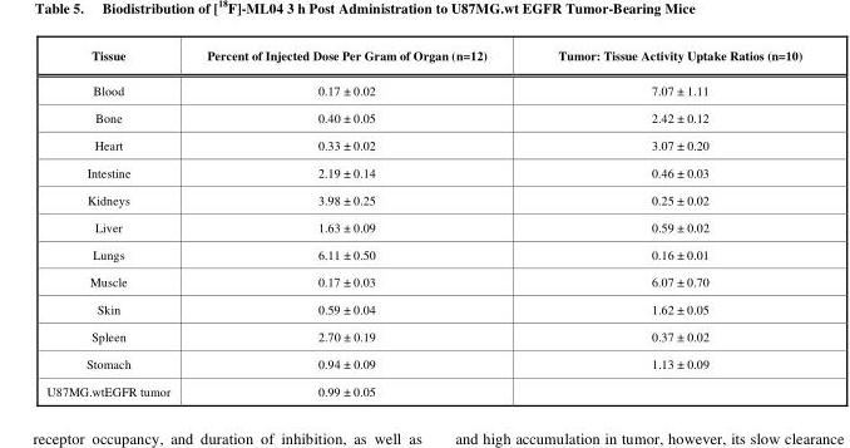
<table><thead><tr><td>Tissue</td><td>Percent of Injected Dose Per Gram of Organ (n=12)</td><td>Tumor: Tissue Activity Uptake Ratios (n=10)</td></tr></thead><tbody><tr><td>Blood</td><td>0.17 ± 0.02</td><td>7.07 ± 1.11</td></tr><tr><td>Bone</td><td>0.40 ± 0.05</td><td>2.42 ± 0.12</td></tr><tr><td>Heart</td><td>0.33 ± 0.02</td><td>3.07 ± 0.20</td></tr><tr><td>Intestine</td><td>2.19 ± 0.14</td><td>0.46 ± 0.03</td></tr><tr><td>Kidneys</td><td>3.98 ± 0.25</td><td>0.25 ± 0.02</td></tr><tr><td>Liver</td><td>1.63 ± 0.09</td><td>0.59 ± 0.02</td></tr><tr><td>Lungs</td><td>6.11 ± 0.50</td><td>0.16 ± 0.01</td></tr><tr><td>Muscle</td><td>0.17 ± 0.03</td><td>6.07 ± 0.70</td></tr><tr><td>Skin</td><td>0.59 ± 0.04</td><td>1.62 ± 0.05</td></tr><tr><td>Spleen</td><td>2.70 ± 0.19</td><td>0.37 ± 0.02</td></tr><tr><td>Stomach</td><td>0.94 ± 0.09</td><td>1.13 ± 0.09</td></tr><tr><td>U87MG.wtEGFR tumor</td><td>0.99 ± 0.05</td><td></td></tr></tbody></table>